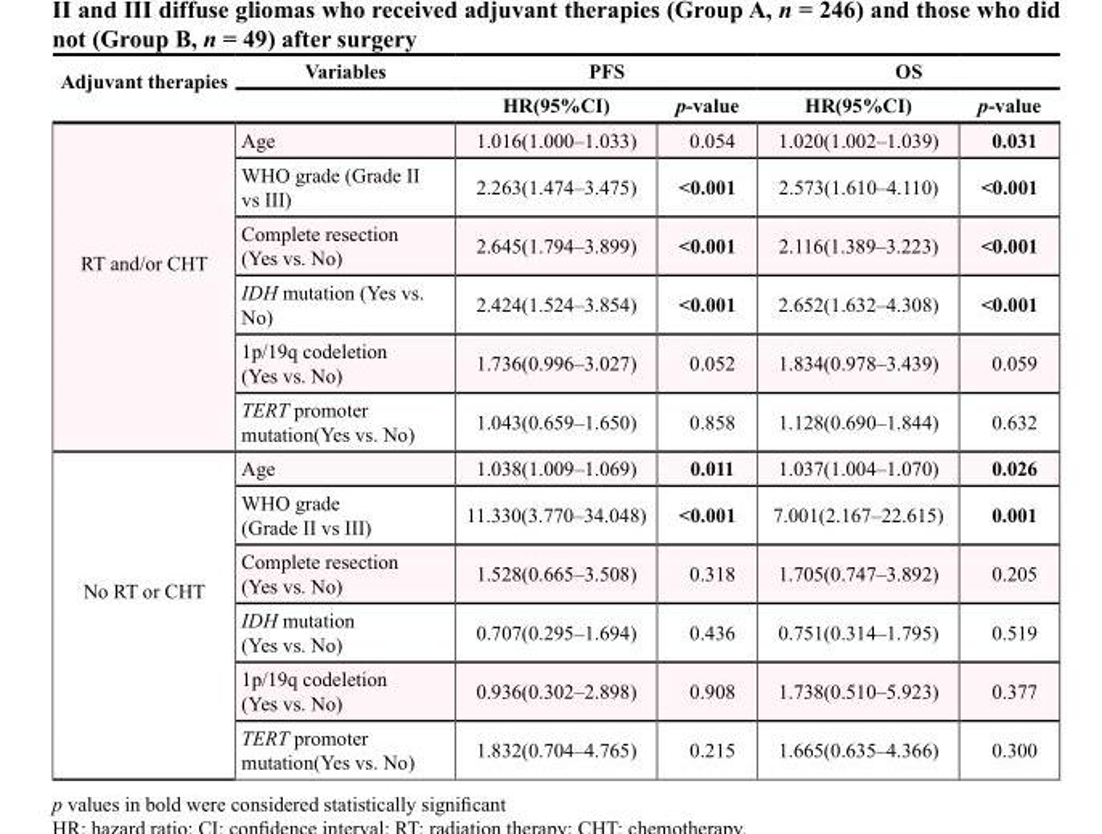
<table><thead><tr><td rowspan="2">Adjuvant therapies</td><td rowspan="2">Variables</td><td colspan="2">PFS</td><td colspan="2">OS</td></tr><tr><td>HR(95%CI)</td><td>p-value</td><td>HR(95%CI)</td><td>p-value</td></tr></thead><tbody><tr><td rowspan="6">RT and/or CHT</td><td>Age</td><td>1.016(1.000–1.033)</td><td>0.054</td><td>1.020(1.002–1.039)</td><td>0.031</td></tr><tr><td>WHO grade (Grade II vs III)</td><td>2.263(1.474–3.475)</td><td>&lt;0.001</td><td>2.573(1.610–4.110)</td><td>&lt;0.001</td></tr><tr><td>Complete resection (Yes vs. No)</td><td>2.645(1.794–3.899)</td><td>&lt;0.001</td><td>2.116(1.389–3.223)</td><td>&lt;0.001</td></tr><tr><td>IDH mutation (Yes vs. No)</td><td>2.424(1.524–3.854)</td><td>&lt;0.001</td><td>2.652(1.632–4.308)</td><td>&lt;0.001</td></tr><tr><td>1p/19q codeletion (Yes vs. No)</td><td>1.736(0.996–3.027)</td><td>0.052</td><td>1.834(0.978–3.439)</td><td>0.059</td></tr><tr><td>TERT promoter mutation(Yes vs. No)</td><td>1.043(0.659–1.650)</td><td>0.858</td><td>1.128(0.690–1.844)</td><td>0.632</td></tr><tr><td rowspan="6">No RT or CHT</td><td>Age</td><td>1.038(1.009–1.069)</td><td>0.011</td><td>1.037(1.004–1.070)</td><td>0.026</td></tr><tr><td>WHO grade (Grade II vs III)</td><td>11.330(3.770–34.048)</td><td>&lt;0.001</td><td>7.001(2.167–22.615)</td><td>0.001</td></tr><tr><td>Complete resection (Yes vs. No)</td><td>1.528(0.665–3.508)</td><td>0.318</td><td>1.705(0.747–3.892)</td><td>0.205</td></tr><tr><td>IDH mutation (Yes vs. No)</td><td>0.707(0.295–1.694)</td><td>0.436</td><td>0.751(0.314–1.795)</td><td>0.519</td></tr><tr><td>1p/19q codeletion (Yes vs. No)</td><td>0.936(0.302–2.898)</td><td>0.908</td><td>1.738(0.510–5.923)</td><td>0.377</td></tr><tr><td>TERT promoter mutation(Yes vs. No)</td><td>1.832(0.704–4.765)</td><td>0.215</td><td>1.665(0.635–4.366)</td><td>0.300</td></tr></tbody></table>